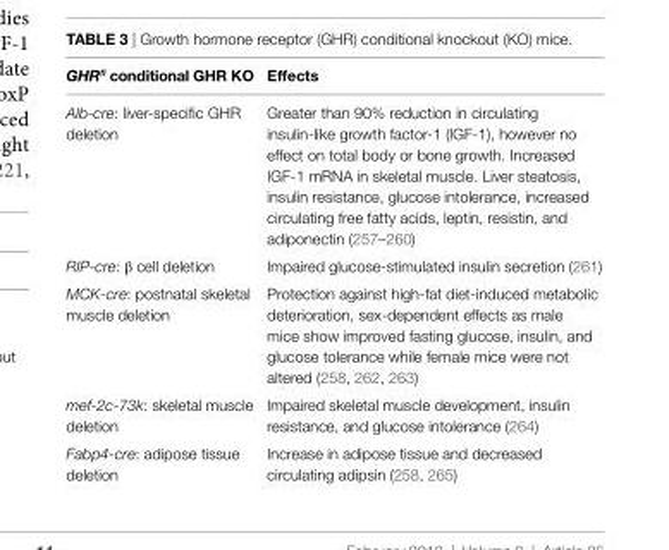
<table><thead><tr><td>GHR<sup>fl</sup> conditional GHR KO</td><td>effects</td></tr></thead><tbody><tr><td>Alb-cre: liver-specific GHR deletion</td><td>Greater than 90% reduction in circulating insulin-like growth factor-1 (IGF-1), however no effect on total body or bone growth. Increased IGF-1 mRNA in skeletal muscle. Liver steatosis, insulin resistance, glucose intolerance, increased circulating free fatty acids, leptin, resistin, and adiponectin (257–260)</td></tr><tr><td>RIP-cre: β cell deletion</td><td>Impaired glucose-stimulated insulin secretion (261)</td></tr><tr><td>MCK-cre: postnatal skeletal muscle deletion</td><td>Protection against high-fat diet-induced metabolic deterioration, sex-dependent effects as male mice show improved fasting glucose, insulin, and glucose tolerance while female mice were not altered (258, 262, 263)</td></tr><tr><td>mef-2c-73k: skeletal muscle deletion</td><td>Impaired skeletal muscle development, insulin resistance, and glucose intolerance (264)</td></tr><tr><td>Fabp4-cre: adipose tissue deletion</td><td>Increase in adipose tissue and decreased circulating adipsin (258, 265)</td></tr></tbody></table>